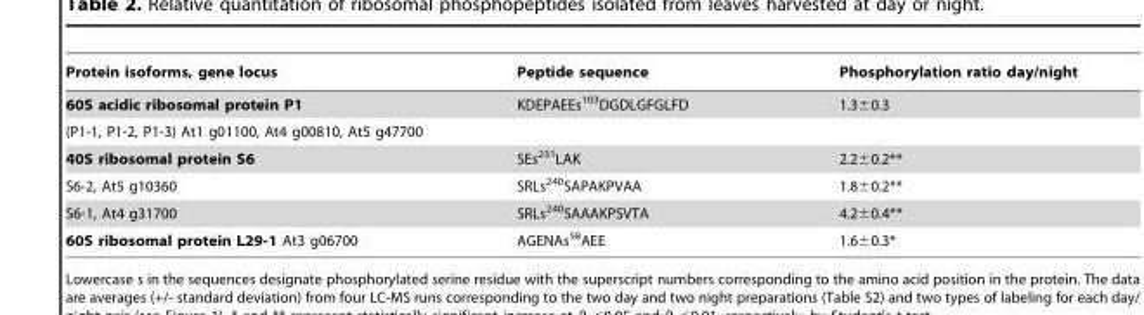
<table><thead><tr><td>Protein isoforms, gene locus</td><td>Peptide sequence</td><td>Phosphorylation ratio day/night</td></tr></thead><tbody><tr><td>60S acidic ribosomal protein P1</td><td>KDEPAEEs<sup>103</sup>DGDLGFGLFD</td><td>1.3±0.3</td></tr><tr><td colspan="3">(P1-1, P1-2, P1-3) At1 g01100, At4 g00810, At5 g47700</td></tr><tr><td>40S ribosomal protein S6</td><td>SEs<sup>231</sup>LAK</td><td>2.2±0.2**</td></tr><tr><td>S6-2, At5 g10360</td><td>SRLs<sup>240</sup>SAPAKPVAA</td><td>1.8±0.2**</td></tr><tr><td>S6-1, At4 g31700</td><td>SRLs<sup>240</sup>SAAAKPSVTA</td><td>4.2±0.4**</td></tr><tr><td>60S ribosomal protein L29-1 At3 g06700</td><td>AGENAs<sup>58</sup>AEE</td><td>1.6±0.3*</td></tr></tbody></table>